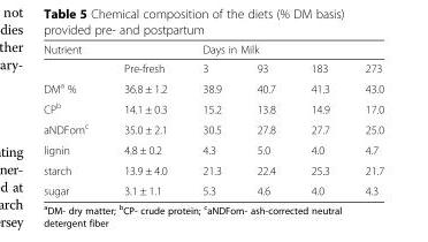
<table><thead><tr><td rowspan="2">Nutrient</td><td rowspan="2">Pre-fresh</td><td colspan="4">Days in Milk</td></tr><tr><td>3</td><td>93</td><td>183</td><td>273</td></tr></thead><tbody><tr><td>DM<sup>a</sup> %</td><td>36.8 ± 1.2</td><td>38.9</td><td>40.7</td><td>41.3</td><td>43.0</td></tr><tr><td>CP<sup>b</sup></td><td>14.1 ± 0.3</td><td>15.2</td><td>13.8</td><td>14.9</td><td>17.0</td></tr><tr><td>aNDFom<sup>c</sup></td><td>35.0 ± 2.1</td><td>30.5</td><td>27.8</td><td>27.7</td><td>25.0</td></tr><tr><td>lignin</td><td>4.8 ± 0.2</td><td>4.3</td><td>5.0</td><td>4.0</td><td>4.7</td></tr><tr><td>starch</td><td>13.9 ± 4.0</td><td>21.3</td><td>22.4</td><td>25.3</td><td>21.7</td></tr><tr><td>sugar</td><td>3.1 ± 1.1</td><td>5.3</td><td>4.6</td><td>4.0</td><td>4.3</td></tr></tbody></table>